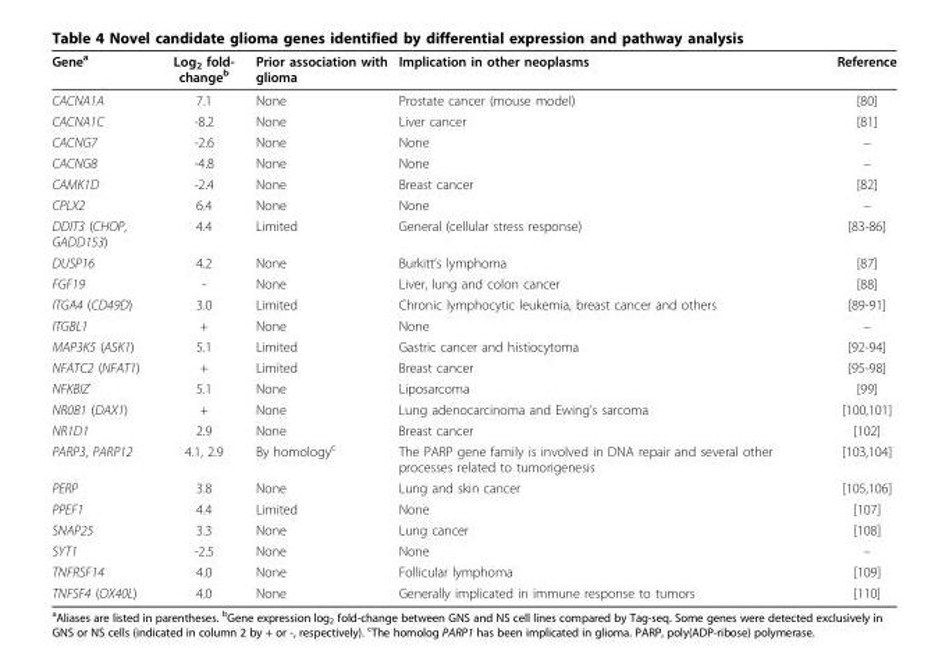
<table><thead><tr><td>Gene<sup>a</sup></td><td>Log<sub>2</sub> fold- change<sup>b</sup></td><td>Prior association with glioma</td><td>Implication in other neoplasms</td><td>Reference</td></tr></thead><tbody><tr><td>CACNA1A</td><td>7.1</td><td>None</td><td>Prostate cancer (mouse model)</td><td>[80]</td></tr><tr><td>CACNA1C</td><td>-8.2</td><td>None</td><td>Liver cancer</td><td>[81]</td></tr><tr><td>CACNG7</td><td>-2.6</td><td>None</td><td>None</td><td>–</td></tr><tr><td>CACNG8</td><td>-4.8</td><td>None</td><td>None</td><td>–</td></tr><tr><td>CAMK1D</td><td>-2.4</td><td>None</td><td>Breast cancer</td><td>[82]</td></tr><tr><td>CPLX2</td><td>6.4</td><td>None</td><td>None</td><td>–</td></tr><tr><td>DDIT3 (CHOP, GADD153)</td><td>4.4</td><td>Limited</td><td>General (cellular stress response)</td><td>[83-86]</td></tr><tr><td>DUSP16</td><td>4.2</td><td>None</td><td>Burkitt’s lymphoma</td><td>[87]</td></tr><tr><td>FGF19</td><td>-</td><td>None</td><td>Liver, lung and colon cancer</td><td>[88]</td></tr><tr><td>ITGA4 (CD49D)</td><td>3.0</td><td>Limited</td><td>Chronic lymphocytic leukemia, breast cancer and others</td><td>[89-91]</td></tr><tr><td>ITGBL1</td><td>+</td><td>None</td><td>None</td><td>–</td></tr><tr><td>MAP3K5 (ASK1)</td><td>5.1</td><td>Limited</td><td>Gastric cancer and histiocytoma</td><td>[92-94]</td></tr><tr><td>NFATC2 (NFAT1)</td><td>+</td><td>Limited</td><td>Breast cancer</td><td>[95-98]</td></tr><tr><td>NFKBIZ</td><td>5.1</td><td>None</td><td>Liposarcoma</td><td>[99]</td></tr><tr><td>NR0B1 (DAX1)</td><td>+</td><td>None</td><td>Lung adenocarcinoma and Ewing’s sarcoma</td><td>[100,101]</td></tr><tr><td>NR1D1</td><td>2.9</td><td>None</td><td>Breast cancer</td><td>[102]</td></tr><tr><td>PARP3, PARP12</td><td>4.1, 2.9</td><td>By homology<sup>c</sup></td><td>The PARP gene family is involved in DNA repair and several other processes related to tumorigenesis</td><td>[103,104]</td></tr><tr><td>PERP</td><td>3.8</td><td>None</td><td>Lung and skin cancer</td><td>[105,106]</td></tr><tr><td>PPEF1</td><td>4.4</td><td>Limited</td><td>None</td><td>[107]</td></tr><tr><td>SNAP25</td><td>3.3</td><td>None</td><td>Lung cancer</td><td>[108]</td></tr><tr><td>SYT1</td><td>-2.5</td><td>None</td><td>None</td><td>–</td></tr><tr><td>TNFRSF14</td><td>4.0</td><td>None</td><td>Follicular lymphoma</td><td>[109]</td></tr><tr><td>TNFSF4 (OX40L)</td><td>4.0</td><td>None</td><td>Generally implicated in immune response to tumors</td><td>[110]</td></tr></tbody></table>